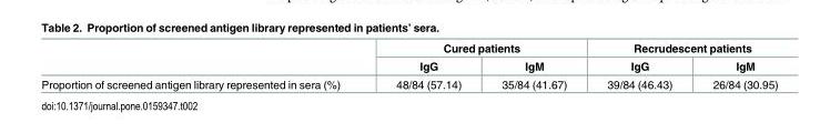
<table><thead><tr><td rowspan="2"></td><td colspan="2">Cured patients</td><td colspan="2">Recrudescent patients</td></tr><tr><td>IgG</td><td>IgM</td><td>IgG</td><td>IgM</td></tr></thead><tbody><tr><td>Proportion of screened antigen library represented in sera (%)</td><td>48/84 (57.14)</td><td>35/84 (41.67)</td><td>39/84 (46.43)</td><td>26/84 (30.95)</td></tr></tbody></table>